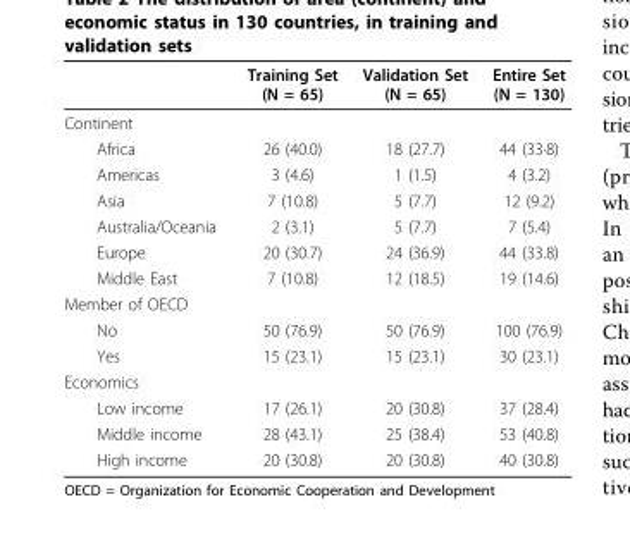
<table><thead><tr><td></td><td>Training Set (N = 65)</td><td>Validation Set (N = 65)</td><td>Entire Set (N = 130)</td></tr></thead><tbody><tr><td colspan="4">Continent</td></tr><tr><td>Africa</td><td>26 (40.0)</td><td>18 (27.7)</td><td>44 (33·8)</td></tr><tr><td>Americas</td><td>3 (4.6)</td><td>1 (1.5)</td><td>4 (3.2)</td></tr><tr><td>Asia</td><td>7 (10.8)</td><td>5 (7.7)</td><td>12 (9.2)</td></tr><tr><td>Australia/Oceania</td><td>2 (3.1)</td><td>5 (7.7)</td><td>7 (5.4)</td></tr><tr><td>Europe</td><td>20 (30.7)</td><td>24 (36.9)</td><td>44 (33.8)</td></tr><tr><td>Middle East</td><td>7 (10.8)</td><td>12 (18.5)</td><td>19 (14.6)</td></tr><tr><td colspan="4">Member of OECD</td></tr><tr><td>No</td><td>50 (76.9)</td><td>50 (76.9)</td><td>100 (76.9)</td></tr><tr><td>Yes</td><td>15 (23.1)</td><td>15 (23.1)</td><td>30 (23.1)</td></tr><tr><td colspan="4">Economics</td></tr><tr><td>Low income</td><td>17 (26.1)</td><td>20 (30.8)</td><td>37 (28.4)</td></tr><tr><td>Middle income</td><td>28 (43.1)</td><td>25 (38.4)</td><td>53 (40.8)</td></tr><tr><td>High income</td><td>20 (30.8)</td><td>20 (30.8)</td><td>40 (30.8)</td></tr></tbody></table>